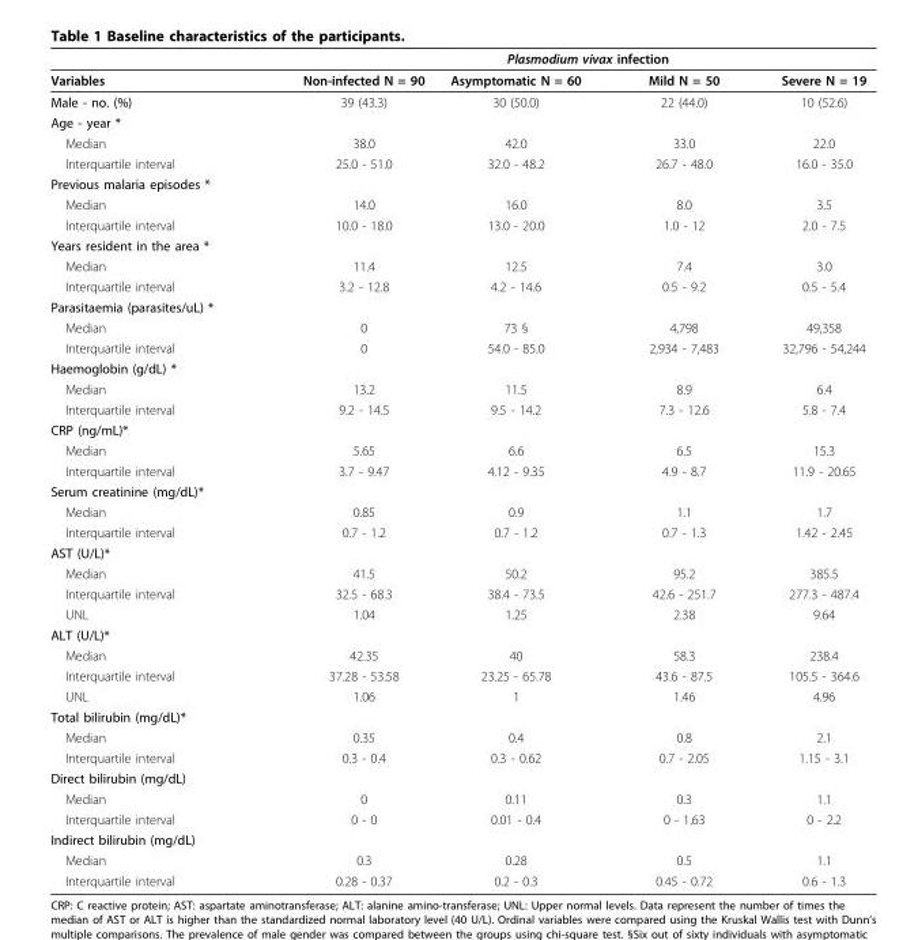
<table><thead><tr><td rowspan="2">Variables</td><td colspan="4">Plasmodium vivax infection</td></tr><tr><td>Non-infected N = 90</td><td>Asymptomatic N = 60</td><td>Mild N = 50</td><td>Severe N = 19</td></tr></thead><tbody><tr><td>Male - no. (%)</td><td>39 (43.3)</td><td>30 (50.0)</td><td>22 (44.0)</td><td>10 (52.6)</td></tr><tr><td colspan="5">Age - year *</td></tr><tr><td>Median</td><td>38.0</td><td>42.0</td><td>33.0</td><td>22.0</td></tr><tr><td>Interquartile interval</td><td>25.0 - 51.0</td><td>32.0 - 48.2</td><td>26.7 - 48.0</td><td>16.0 - 35.0</td></tr><tr><td colspan="5">Previous malaria episodes *</td></tr><tr><td>Median</td><td>14.0</td><td>16.0</td><td>8.0</td><td>3.5</td></tr><tr><td>Interquartile interval</td><td>10.0 - 18.0</td><td>13.0 - 20.0</td><td>1.0 - 12</td><td>2.0 - 7.5</td></tr><tr><td colspan="5">Years resident in the area *</td></tr><tr><td>Median</td><td>11.4</td><td>12.5</td><td>7.4</td><td>3.0</td></tr><tr><td>Interquartile interval</td><td>3.2 - 12.8</td><td>4.2 - 14.6</td><td>0.5 - 9.2</td><td>0.5 - 5.4</td></tr><tr><td colspan="5">Parasitaemia (parasites/uL) *</td></tr><tr><td>Median</td><td>0</td><td>73 §</td><td>4,798</td><td>49,358</td></tr><tr><td>Interquartile interval</td><td>0</td><td>54.0 - 85.0</td><td>2,934 - 7,483</td><td>32,796 - 54,244</td></tr><tr><td colspan="5">Haemoglobin (g/dL) *</td></tr><tr><td>Median</td><td>13.2</td><td>11.5</td><td>8.9</td><td>6.4</td></tr><tr><td>Interquartile interval</td><td>9.2 - 14.5</td><td>9.5 - 14.2</td><td>7.3 - 12.6</td><td>5.8 - 7.4</td></tr><tr><td colspan="5">CRP (ng/mL)*</td></tr><tr><td>Median</td><td>5.65</td><td>6.6</td><td>6.5</td><td>15.3</td></tr><tr><td>Interquartile interval</td><td>3.7 - 9.47</td><td>4.12 - 9.35</td><td>4.9 - 8.7</td><td>11.9 - 20.65</td></tr><tr><td colspan="5">Serum creatinine (mg/dL)*</td></tr><tr><td>Median</td><td>0.85</td><td>0.9</td><td>1.1</td><td>1.7</td></tr><tr><td>Interquartile interval</td><td>0.7 - 1.2</td><td>0.7 - 1.2</td><td>0.7 - 1.3</td><td>1.42 - 2.45</td></tr><tr><td colspan="5">AST (U/L)*</td></tr><tr><td>Median</td><td>41.5</td><td>50.2</td><td>95.2</td><td>385.5</td></tr><tr><td>Interquartile interval</td><td>32.5 - 68.3</td><td>38.4 - 73.5</td><td>42.6 - 251.7</td><td>277.3 - 487.4</td></tr><tr><td>UNL</td><td>1.04</td><td>1.25</td><td>2.38</td><td>9.64</td></tr><tr><td colspan="5">ALT (U/L)*</td></tr><tr><td>Median</td><td>42.35</td><td>40</td><td>58.3</td><td>238.4</td></tr><tr><td>Interquartile interval</td><td>37.28 - 53.58</td><td>23.25 - 65.78</td><td>43.6 - 87.5</td><td>105.5 - 364.6</td></tr><tr><td>UNL</td><td>1.06</td><td>1</td><td>1.46</td><td>4.96</td></tr><tr><td colspan="5">Total bilirubin (mg/dL)*</td></tr><tr><td>Median</td><td>0.35</td><td>0.4</td><td>0.8</td><td>2.1</td></tr><tr><td>Interquartile interval</td><td>0.3 - 0.4</td><td>0.3 - 0.62</td><td>0.7 - 2.05</td><td>1.15 - 3.1</td></tr><tr><td colspan="5">Direct bilirubin (mg/dL)</td></tr><tr><td>Median</td><td>0</td><td>0.11</td><td>0.3</td><td>1.1</td></tr><tr><td>Interquartile interval</td><td>0 - 0</td><td>0.01 - 0.4</td><td>0 - 1.63</td><td>0 - 2.2</td></tr><tr><td colspan="5">Indirect bilirubin (mg/dL)</td></tr><tr><td>Median</td><td>0.3</td><td>0.28</td><td>0.5</td><td>1.1</td></tr><tr><td>Interquartile interval</td><td>0.28 - 0.37</td><td>0.2 - 0.3</td><td>0.45 - 0.72</td><td>0.6 - 1.3</td></tr></tbody></table>